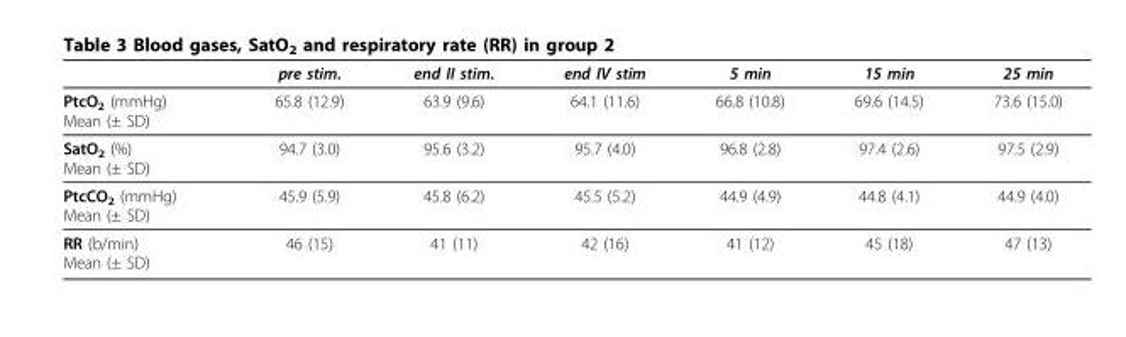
<table><thead><tr><td></td><td>pre stim.</td><td>end II stim.</td><td>end IV stim</td><td>5 min</td><td>15 min</td><td>25 min</td></tr></thead><tbody><tr><td>PtcO<sub>2</sub> (mmHg) Mean (± SD)</td><td>65.8 (12.9)</td><td>63.9 (9.6)</td><td>64.1 (11.6)</td><td>66.8 (10.8)</td><td>69.6 (14.5)</td><td>73.6 (15.0)</td></tr><tr><td>SatO<sub>2</sub> (%) Mean (± SD)</td><td>94.7 (3.0)</td><td>95.6 (3.2)</td><td>95.7 (4.0)</td><td>96.8 (2.8)</td><td>97.4 (2.6)</td><td>97.5 (2.9)</td></tr><tr><td>PtcCO<sub>2</sub> (mmHg) Mean (± SD)</td><td>45.9 (5.9)</td><td>45.8 (6.2)</td><td>45.5 (5.2)</td><td>44.9 (4.9)</td><td>44.8 (4.1)</td><td>44.9 (4.0)</td></tr><tr><td>RR (b/min) Mean (± SD)</td><td>46 (15)</td><td>41 (11)</td><td>42 (16)</td><td>41 (12)</td><td>45 (18)</td><td>47 (13)</td></tr></tbody></table>